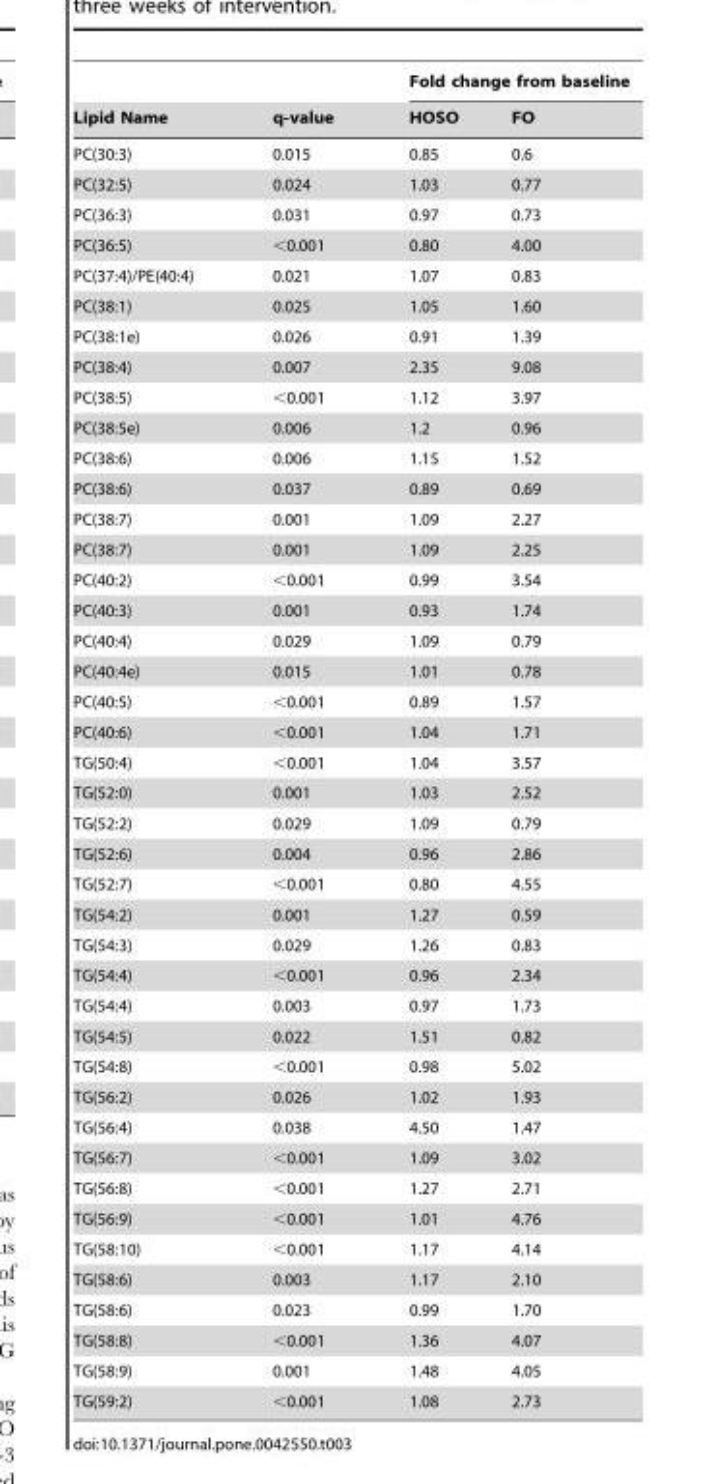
<table><thead><tr><td rowspan="2">Lipid Name</td><td rowspan="2">q-value</td><td colspan="2">Fold change from baseline</td></tr><tr><td>HOSO</td><td>FO</td></tr></thead><tbody><tr><td>PC(30:3)</td><td>0.015</td><td>0.85</td><td>0.6</td></tr><tr><td>PC(32:5)</td><td>0.024</td><td>1.03</td><td>0.77</td></tr><tr><td>PC(36:3)</td><td>0.031</td><td>0.97</td><td>0.73</td></tr><tr><td>PC(36:5)</td><td>&lt;0.001</td><td>0.80</td><td>4.00</td></tr><tr><td>PC(37:4)/PE(40:4)</td><td>0.021</td><td>1.07</td><td>0.83</td></tr><tr><td>PC(38:1)</td><td>0.025</td><td>1.05</td><td>1.60</td></tr><tr><td>PC(38:1e)</td><td>0.026</td><td>0.91</td><td>1.39</td></tr><tr><td>PC(38:4)</td><td>0.007</td><td>2.35</td><td>9.08</td></tr><tr><td>PC(38:5)</td><td>&lt;0.001</td><td>1.12</td><td>3.97</td></tr><tr><td>PC(38:5e)</td><td>0.006</td><td>1.2</td><td>0.96</td></tr><tr><td>PC(38:6)</td><td>0.006</td><td>1.15</td><td>1.52</td></tr><tr><td>PC(38:6)</td><td>0.037</td><td>0.89</td><td>0.69</td></tr><tr><td>PC(38:7)</td><td>0.001</td><td>1.09</td><td>2.27</td></tr><tr><td>PC(38:7)</td><td>0.001</td><td>1.09</td><td>2.25</td></tr><tr><td>PC(40:2)</td><td>&lt;0.001</td><td>0.99</td><td>3.54</td></tr><tr><td>PC(40:3)</td><td>0.001</td><td>0.93</td><td>1.74</td></tr><tr><td>PC(40:4)</td><td>0.029</td><td>1.09</td><td>0.79</td></tr><tr><td>PC(40:4e)</td><td>0.015</td><td>1.01</td><td>0.78</td></tr><tr><td>PC(40:5)</td><td>&lt;0.001</td><td>0.89</td><td>1.57</td></tr><tr><td>PC(40:6)</td><td>&lt;0.001</td><td>1.04</td><td>1.71</td></tr><tr><td>TG(50:4)</td><td>&lt;0.001</td><td>1.04</td><td>3.57</td></tr><tr><td>TG(52:0)</td><td>0.001</td><td>1.03</td><td>2.52</td></tr><tr><td>TG(52:2)</td><td>0.029</td><td>1.09</td><td>0.79</td></tr><tr><td>TG(52:6)</td><td>0.004</td><td>0.96</td><td>2.86</td></tr><tr><td>TG(52:7)</td><td>&lt;0.001</td><td>0.80</td><td>4.55</td></tr><tr><td>TG(54:2)</td><td>0.001</td><td>1.27</td><td>0.59</td></tr><tr><td>TG(54:3)</td><td>0.029</td><td>1.26</td><td>0.83</td></tr><tr><td>TG(54:4)</td><td>&lt;0.001</td><td>0.96</td><td>2.34</td></tr><tr><td>TG(54:4)</td><td>0.003</td><td>0.97</td><td>1.73</td></tr><tr><td>TG(54:5)</td><td>0.022</td><td>1.51</td><td>0.82</td></tr><tr><td>TG(54:8)</td><td>&lt;0.001</td><td>0.98</td><td>5.02</td></tr><tr><td>TG(56:2)</td><td>0.026</td><td>1.02</td><td>1.93</td></tr><tr><td>TG(56:4)</td><td>0.038</td><td>4.50</td><td>1.47</td></tr><tr><td>TG(56:7)</td><td>&lt;0.001</td><td>1.09</td><td>3.02</td></tr><tr><td>TG(56:8)</td><td>&lt;0.001</td><td>1.27</td><td>2.71</td></tr><tr><td>TG(56:9)</td><td>&lt;0.001</td><td>1.01</td><td>4.76</td></tr><tr><td>TG(58:10)</td><td>&lt;0.001</td><td>1.17</td><td>4.14</td></tr><tr><td>TG(58:6)</td><td>0.003</td><td>1.17</td><td>2.10</td></tr><tr><td>TG(58:6)</td><td>0.023</td><td>0.99</td><td>1.70</td></tr><tr><td>TG(58:8)</td><td>&lt;0.001</td><td>1.36</td><td>4.07</td></tr><tr><td>TG(58:9)</td><td>0.001</td><td>1.48</td><td>4.05</td></tr><tr><td>TG(59:2)</td><td>&lt;0.001</td><td>1.08</td><td>2.73</td></tr></tbody></table>